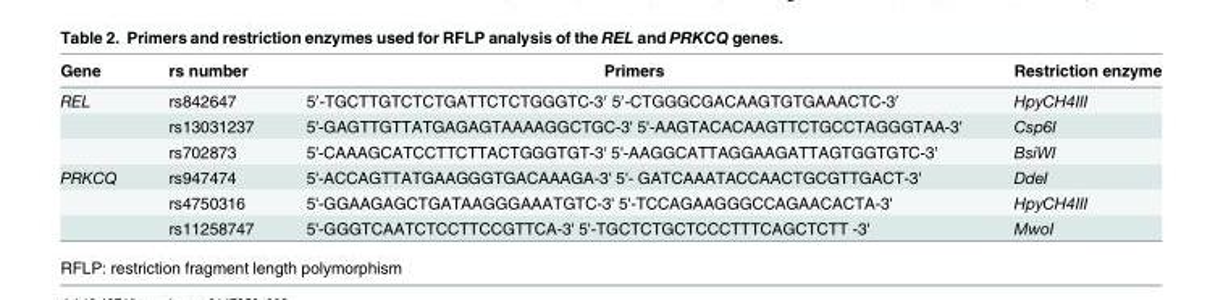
<table><thead><tr><td>Gene</td><td>rs number</td><td>Primers</td><td>Restriction enzyme</td></tr></thead><tbody><tr><td rowspan="3">REL</td><td>rs842647</td><td>5′-TGCTTGTCTCTGATTCTCTGGGTC-3′ 5′-CTGGGCGACAAGTGTGAAACTC-3′</td><td>HpyCH4III</td></tr><tr><td>rs13031237</td><td>5&#x27;-GAGTTGTTATGAGAGTAAAAGGCTGC-3&#x27; 5&#x27;-AAGTACACAAGTTCTGCCTAGGGTAA-3&#x27;</td><td>Csp6I</td></tr><tr><td>rs702873</td><td>5&#x27;-CAAAGCATCCTTCTTACTGGGTGT-3&#x27; 5&#x27;-AAGGCATTAGGAAGATTAGTGGTGTC-3&#x27;</td><td>BsiWI</td></tr><tr><td rowspan="3">PRKCQ</td><td>rs947474</td><td>5&#x27;-ACCAGTTATGAAGGGTGACAAAGA-3&#x27; 5&#x27;- GATCAAATACCAACTGCGTTGACT-3&#x27;</td><td>DdeI</td></tr><tr><td>rs4750316</td><td>5&#x27;-GGAAGAGCTGATAAGGGAAATGTC-3&#x27; 5&#x27;-TCCAGAAGGGCCAGAACACTA-3&#x27;</td><td>HpyCH4III</td></tr><tr><td>rs11258747</td><td>5&#x27;-GGGTCAATCTCCTTCCGTTCA-3&#x27; 5&#x27;-TGCTCTGCTCCCTTTCAGCTCTT -3&#x27;</td><td>MwoI</td></tr></tbody></table>